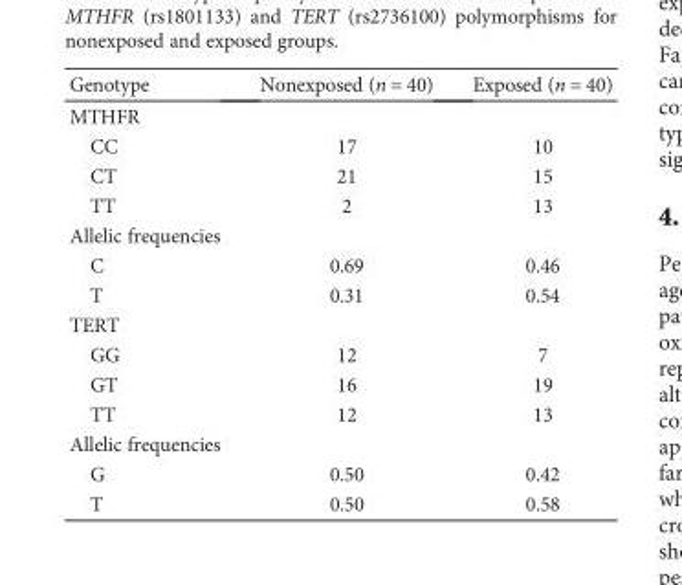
<table><thead><tr><td>Genotype</td><td>Nonexposed (n = 40)</td><td>Exposed (n = 40)</td></tr></thead><tbody><tr><td colspan="3">MTHFR</td></tr><tr><td>CC</td><td>17</td><td>10</td></tr><tr><td>CT</td><td>21</td><td>15</td></tr><tr><td>TT</td><td>2</td><td>13</td></tr><tr><td colspan="3">Allelic frequencies</td></tr><tr><td>C</td><td>0.69</td><td>0.46</td></tr><tr><td>T</td><td>0.31</td><td>0.54</td></tr><tr><td colspan="3">TERT</td></tr><tr><td>GG</td><td>12</td><td>7</td></tr><tr><td>GT</td><td>16</td><td>19</td></tr><tr><td>TT</td><td>12</td><td>13</td></tr><tr><td colspan="3">Allelic frequencies</td></tr><tr><td>G</td><td>0.50</td><td>0.42</td></tr><tr><td>T</td><td>0.50</td><td>0.58</td></tr></tbody></table>